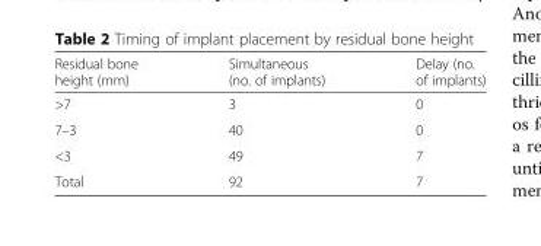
<table><thead><tr><td>Residual bone height (mm)</td><td>Simultaneous (no. of implants)</td><td>Delay (no. of implants)</td></tr></thead><tbody><tr><td>&gt;7</td><td>3</td><td>0</td></tr><tr><td>7–3</td><td>40</td><td>0</td></tr><tr><td>&lt;3</td><td>49</td><td>7</td></tr><tr><td>Total</td><td>92</td><td>7</td></tr></tbody></table>